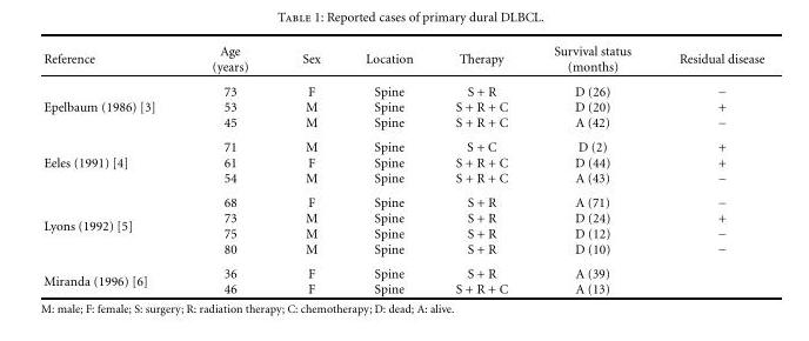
<table><thead><tr><td>Reference</td><td>Age (years)</td><td>Sex</td><td>Location</td><td>Therapy</td><td>Survival status (months)</td><td>Residual disease</td></tr></thead><tbody><tr><td>Epelbaum (1986) [3]</td><td>73 53 45</td><td>F M M</td><td>Spine Spine Spine</td><td>S + R S + R + C S + R + C</td><td>D (26) D (20) A (42)</td><td>− + −</td></tr><tr><td>Eeles (1991) [4]</td><td>71 61 54</td><td>M F M</td><td>Spine Spine Spine</td><td>S + C S + R + C S + R + C</td><td>D (2) D (44) A (43)</td><td>+ + −</td></tr><tr><td>Lyons (1992) [5]</td><td>68 73 75 80</td><td>F M M M</td><td>Spine Spine Spine Spine</td><td>S + R S + R S + R S + R</td><td>A (71) D (24) D (12) D (10)</td><td>− + − −</td></tr><tr><td>Miranda (1996) [6]</td><td>36 46</td><td>F F</td><td>Spine Spine</td><td>S + R S + R + C</td><td>A (39) A (13)</td><td></td></tr></tbody></table>